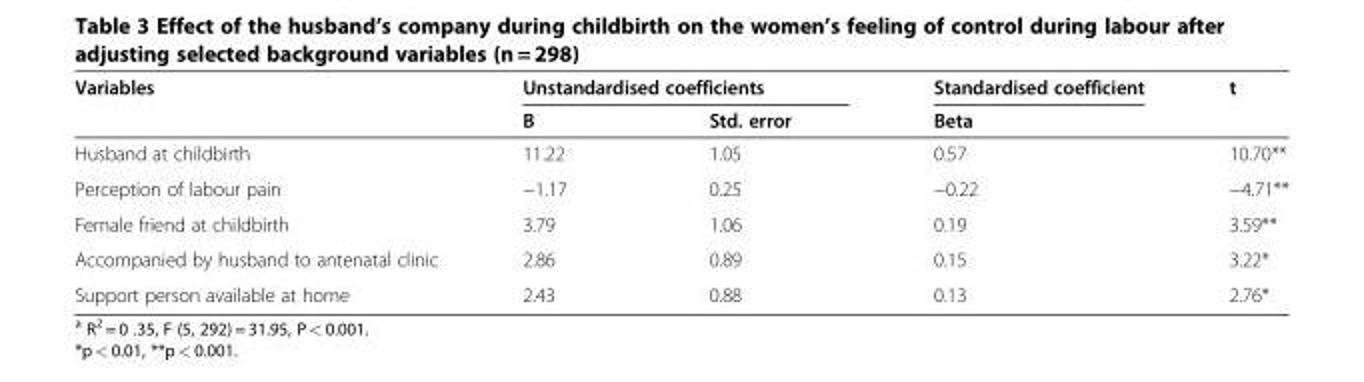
<table><thead><tr><td rowspan="2">Variables</td><td colspan="2">Unstandardised coefficients</td><td rowspan="2">Standardised coefficient Beta</td><td rowspan="2">t</td></tr><tr><td>B</td><td>Std. error</td></tr></thead><tbody><tr><td>Husband at childbirth</td><td>11.22</td><td>1.05</td><td>0.57</td><td>10.70**</td></tr><tr><td>Perception of labour pain</td><td>−1.17</td><td>0.25</td><td>−0.22</td><td>−4.71**</td></tr><tr><td>Female friend at childbirth</td><td>3.79</td><td>1.06</td><td>0.19</td><td>3.59**</td></tr><tr><td>Accompanied by husband to antenatal clinic</td><td>2.86</td><td>0.89</td><td>0.15</td><td>3.22*</td></tr><tr><td>Support person available at home</td><td>2.43</td><td>0.88</td><td>0.13</td><td>2.76*</td></tr></tbody></table>